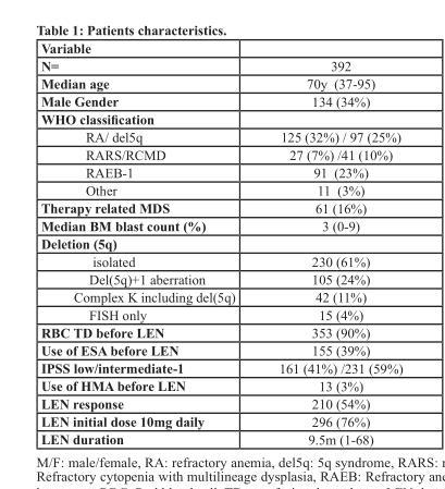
<table><thead><tr><td>Variable</td><td></td></tr></thead><tbody><tr><td>N=</td><td>392</td></tr><tr><td>Median age</td><td>70y (37-95)</td></tr><tr><td>Male Gender</td><td>134 (34%)</td></tr><tr><td colspan="2">WHO classification</td></tr><tr><td>RA/ del5q</td><td>125 (32%) / 97 (25%)</td></tr><tr><td>RARS/RCMD</td><td>27 (7%) /41 (10%)</td></tr><tr><td>RAEB-1</td><td>91 (23%)</td></tr><tr><td>Other</td><td>11 (3%)</td></tr><tr><td>Therapy related MDS</td><td>61 (16%)</td></tr><tr><td>Median BM blast count (%)</td><td>3 (0-9)</td></tr><tr><td colspan="2">Deletion (5q)</td></tr><tr><td>isolated</td><td>230 (61%)</td></tr><tr><td>Del(5q)+1 aberration</td><td>105 (24%)</td></tr><tr><td>Complex K including del(5q)</td><td>42 (11%)</td></tr><tr><td>FISH only</td><td>15 (4%)</td></tr><tr><td>RBC TD before LEN</td><td>353 (90%)</td></tr><tr><td>Use of ESA before LEN</td><td>155 (39%)</td></tr><tr><td>IPSS low/intermediate-1</td><td>161 (41%) /231 (59%)</td></tr><tr><td>Use of HMA before LEN</td><td>13 (3%)</td></tr><tr><td>LEN response</td><td>210 (54%)</td></tr><tr><td>LEN initial dose 10mg daily</td><td>296 (76%)</td></tr><tr><td>LEN duration</td><td>9.5m (1-68)</td></tr></tbody></table>